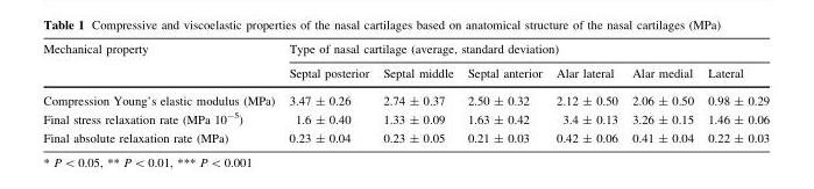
<table><thead><tr><td rowspan="2">Mechanical property</td><td colspan="6">Type of nasal cartilage (average, standard deviation)</td></tr><tr><td>Septal posterior</td><td>Septal middle</td><td>Septal anterior</td><td>Alar lateral</td><td>Alar medial</td><td>Lateral</td></tr></thead><tbody><tr><td>Compression Young’s elastic modulus (MPa)</td><td>3.47 ± 0.26</td><td>2.74 ± 0.37</td><td>2.50 ± 0.32</td><td>2.12 ± 0.50</td><td>2.06 ± 0.50</td><td>0.98 ± 0.29</td></tr><tr><td>Final stress relaxation rate (MPa 10<sup>-5</sup>)</td><td>1.6 ± 0.40</td><td>1.33 ± 0.09</td><td>1.63 ± 0.42</td><td>3.4 ± 0.13</td><td>3.26 ± 0.15</td><td>1.46 ± 0.06</td></tr><tr><td>Final absolute relaxation rate (MPa)</td><td>0.23 ± 0.04</td><td>0.23 ± 0.05</td><td>0.21 ± 0.03</td><td>0.42 ± 0.06</td><td>0.41 ± 0.04</td><td>0.22 ± 0.03</td></tr></tbody></table>